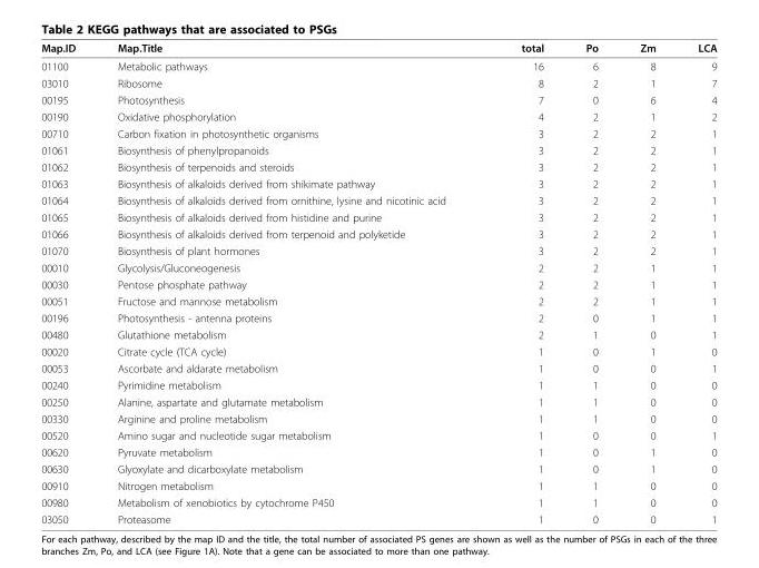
<table><thead><tr><td>Map.ID</td><td>Map.Title</td><td>total</td><td>Po</td><td>Zm</td><td>LCA</td></tr></thead><tbody><tr><td>01100</td><td>Metabolic pathways</td><td>16</td><td>6</td><td>8</td><td>9</td></tr><tr><td>03010</td><td>Ribosome</td><td>8</td><td>2</td><td>1</td><td>7</td></tr><tr><td>00195</td><td>Photosynthesis</td><td>7</td><td>0</td><td>6</td><td>4</td></tr><tr><td>00190</td><td>Oxidative phosphorylation</td><td>4</td><td>2</td><td>1</td><td>2</td></tr><tr><td>00710</td><td>Carbon fixation in photosynthetic organisms</td><td>3</td><td>2</td><td>2</td><td>1</td></tr><tr><td>01061</td><td>Biosynthesis of phenylpropanoids</td><td>3</td><td>2</td><td>2</td><td>1</td></tr><tr><td>01062</td><td>Biosynthesis of terpenoids and steroids</td><td>3</td><td>2</td><td>2</td><td>1</td></tr><tr><td>01063</td><td>Biosynthesis of alkaloids derived from shikimate pathway</td><td>3</td><td>2</td><td>2</td><td>1</td></tr><tr><td>01064</td><td>Biosynthesis of alkaloids derived from ornithine, lysine and nicotinic acid</td><td>3</td><td>2</td><td>2</td><td>1</td></tr><tr><td>01065</td><td>Biosynthesis of alkaloids derived from histidine and purine</td><td>3</td><td>2</td><td>2</td><td>1</td></tr><tr><td>01066</td><td>Biosynthesis of alkaloids derived from terpenoid and polyketide</td><td>3</td><td>2</td><td>2</td><td>1</td></tr><tr><td>01070</td><td>Biosynthesis of plant hormones</td><td>3</td><td>2</td><td>2</td><td>1</td></tr><tr><td>00010</td><td>Glycolysis/Gluconeogenesis</td><td>2</td><td>2</td><td>1</td><td>1</td></tr><tr><td>00030</td><td>Pentose phosphate pathway</td><td>2</td><td>2</td><td>1</td><td>1</td></tr><tr><td>00051</td><td>Fructose and mannose metabolism</td><td>2</td><td>2</td><td>1</td><td>1</td></tr><tr><td>00196</td><td>Photosynthesis - antenna proteins</td><td>2</td><td>0</td><td>1</td><td>1</td></tr><tr><td>00480</td><td>Glutathione metabolism</td><td>2</td><td>1</td><td>0</td><td>1</td></tr><tr><td>00020</td><td>Citrate cycle (TCA cycle)</td><td>1</td><td>0</td><td>1</td><td>0</td></tr><tr><td>00053</td><td>Ascorbate and aldarate metabolism</td><td>1</td><td>0</td><td>0</td><td>1</td></tr><tr><td>00240</td><td>Pyrimidine metabolism</td><td>1</td><td>1</td><td>0</td><td>0</td></tr><tr><td>00250</td><td>Alanine, aspartate and glutamate metabolism</td><td>1</td><td>1</td><td>0</td><td>0</td></tr><tr><td>00330</td><td>Arginine and proline metabolism</td><td>1</td><td>1</td><td>0</td><td>0</td></tr><tr><td>00520</td><td>Amino sugar and nucleotide sugar metabolism</td><td>1</td><td>0</td><td>0</td><td>1</td></tr><tr><td>00620</td><td>Pyruvate metabolism</td><td>1</td><td>0</td><td>1</td><td>0</td></tr><tr><td>00630</td><td>Glyoxylate and dicarboxylate metabolism</td><td>1</td><td>0</td><td>1</td><td>0</td></tr><tr><td>00910</td><td>Nitrogen metabolism</td><td>1</td><td>1</td><td>0</td><td>0</td></tr><tr><td>00980</td><td>Metabolism of xenobiotics by cytochrome P450</td><td>1</td><td>1</td><td>0</td><td>0</td></tr><tr><td>03050</td><td>Proteasome</td><td>1</td><td>0</td><td>0</td><td>1</td></tr></tbody></table>